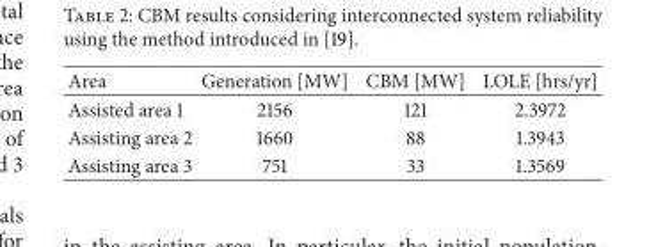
<table><thead><tr><td>Area</td><td>Generation [MW]</td><td>CBM [MW]</td><td>LOLE [hrs/yr]</td></tr></thead><tbody><tr><td>Assisted area 1</td><td>2156</td><td>121</td><td>2.3972</td></tr><tr><td>Assisting area 2</td><td>1660</td><td>88</td><td>1.3943</td></tr><tr><td>Assisting area 3</td><td>751</td><td>33</td><td>1.3569</td></tr></tbody></table>